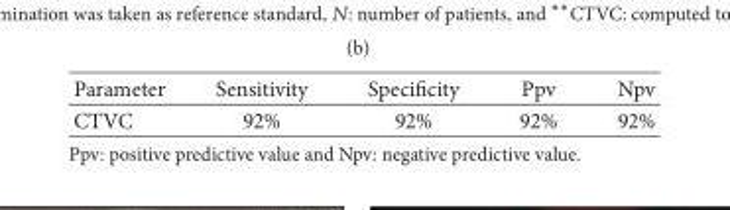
<table><thead><tr><td>Parameter</td><td>Sensitivity</td><td>Specificity</td><td>Ppv</td><td>Npv</td></tr></thead><tbody><tr><td>CTVC</td><td>92%</td><td>92%</td><td>92%</td><td>92%</td></tr></tbody></table>